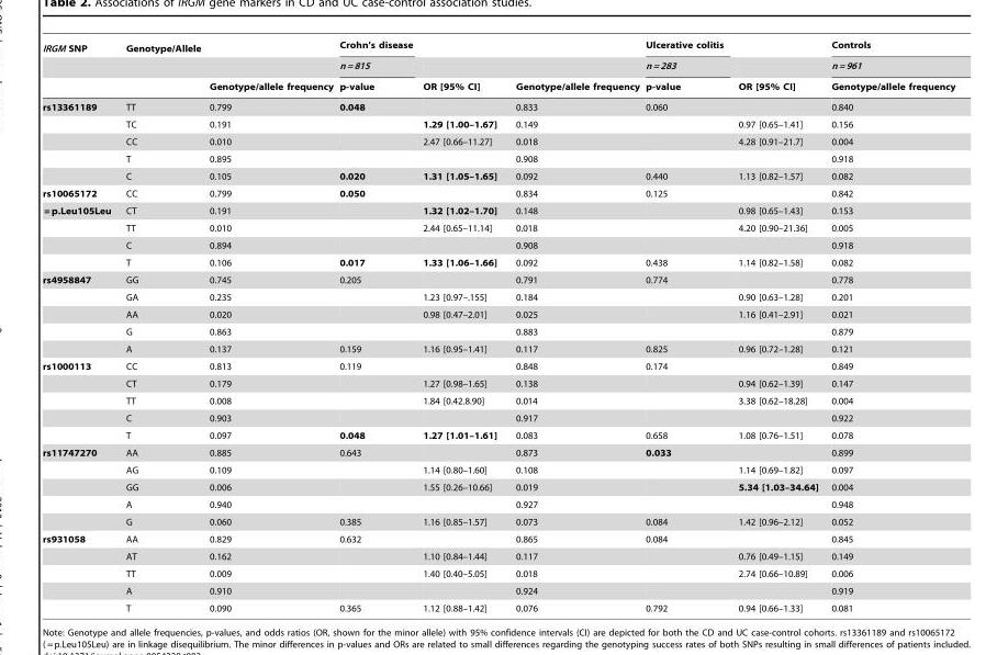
<table><thead><tr><td rowspan="3">IRGM SNP</td><td rowspan="3">Genotype/Allele</td><td rowspan="3">Genotype/allele frequency</td><td rowspan="3">Crohn’s disease n = 815 p-value</td><td rowspan="3">OR [95% CI]</td><td rowspan="3">Genotype/allele frequency</td><td rowspan="3">Ulcerative colitis n = 283 p-value</td><td rowspan="3">OR [95% CI]</td><td rowspan="3">Controls n = 961 Genotype/allele frequency</td></tr><tr></tr><tr></tr></thead><tbody><tr><td rowspan="5">rs13361189</td><td>TT</td><td>0.799</td><td>0.048</td><td></td><td>0.833</td><td>0.060</td><td></td><td>0.840</td></tr><tr><td>TC</td><td>0.191</td><td></td><td>1.29 [1.00–1.67]</td><td>0.149</td><td></td><td>0.97 [0.65–1.41]</td><td>0.156</td></tr><tr><td>CC</td><td>0.010</td><td></td><td>2.47 [0.66–11.27]</td><td>0.018</td><td></td><td>4.28 [0.91–21.7]</td><td>0.004</td></tr><tr><td>T</td><td>0.895</td><td></td><td></td><td>0.908</td><td></td><td></td><td>0.918</td></tr><tr><td>C</td><td>0.105</td><td>0.020</td><td>1.31 [1.05–1.65]</td><td>0.092</td><td>0.440</td><td>1.13 [0.82–1.57]</td><td>0.082</td></tr><tr><td>rs10065172</td><td>CC</td><td>0.799</td><td>0.050</td><td></td><td>0.834</td><td>0.125</td><td></td><td>0.842</td></tr><tr><td rowspan="4">= p.Leu105Leu</td><td>CT</td><td>0.191</td><td></td><td>1.32 [1.02–1.70]</td><td>0.148</td><td></td><td>0.98 [0.65–1.43]</td><td>0.153</td></tr><tr><td>TT</td><td>0.010</td><td></td><td>2.44 [0.65–11.14]</td><td>0.018</td><td></td><td>4.20 [0.90–21.36]</td><td>0.005</td></tr><tr><td>C</td><td>0.894</td><td></td><td></td><td>0.908</td><td></td><td></td><td>0.918</td></tr><tr><td>T</td><td>0.106</td><td>0.017</td><td>1.33 [1.06–1.66]</td><td>0.092</td><td>0.438</td><td>1.14 [0.82–1.58]</td><td>0.082</td></tr><tr><td rowspan="5">rs4958847</td><td>GG</td><td>0.745</td><td>0.205</td><td></td><td>0.791</td><td>0.774</td><td></td><td>0.778</td></tr><tr><td>GA</td><td>0.235</td><td></td><td>1.23 [0.97–.155]</td><td>0.184</td><td></td><td>0.90 [0.63–1.28]</td><td>0.201</td></tr><tr><td>AA</td><td>0.020</td><td></td><td>0.98 [0.47–2.01]</td><td>0.025</td><td></td><td>1.16 [0.41–2.91]</td><td>0.021</td></tr><tr><td>G</td><td>0.863</td><td></td><td></td><td>0.883</td><td></td><td></td><td>0.879</td></tr><tr><td>A</td><td>0.137</td><td>0.159</td><td>1.16 [0.95–1.41]</td><td>0.117</td><td>0.825</td><td>0.96 [0.72–1.28]</td><td>0.121</td></tr><tr><td rowspan="5">rs1000113</td><td>CC</td><td>0.813</td><td>0.119</td><td></td><td>0.848</td><td>0.174</td><td></td><td>0.849</td></tr><tr><td>CT</td><td>0.179</td><td></td><td>1.27 [0.98–1.65]</td><td>0.138</td><td></td><td>0.94 [0.62–1.39]</td><td>0.147</td></tr><tr><td>TT</td><td>0.008</td><td></td><td>1.84 [0.42.8.90]</td><td>0.014</td><td></td><td>3.38 [0.62–18.28]</td><td>0.004</td></tr><tr><td>C</td><td>0.903</td><td></td><td></td><td>0.917</td><td></td><td></td><td>0.922</td></tr><tr><td>T</td><td>0.097</td><td>0.048</td><td>1.27 [1.01–1.61]</td><td>0.083</td><td>0.658</td><td>1.08 [0.76–1.51]</td><td>0.078</td></tr><tr><td rowspan="5">rs11747270</td><td>AA</td><td>0.885</td><td>0.643</td><td></td><td>0.873</td><td>0.033</td><td></td><td>0.899</td></tr><tr><td>AG</td><td>0.109</td><td></td><td>1.14 [0.80–1.60]</td><td>0.108</td><td></td><td>1.14 [0.69–1.82]</td><td>0.097</td></tr><tr><td>GG</td><td>0.006</td><td></td><td>1.55 [0.26–10.66]</td><td>0.019</td><td></td><td>5.34 [1.03–34.64]</td><td>0.004</td></tr><tr><td>A</td><td>0.940</td><td></td><td></td><td>0.927</td><td></td><td></td><td>0.948</td></tr><tr><td>G</td><td>0.060</td><td>0.385</td><td>1.16 [0.85–1.57]</td><td>0.073</td><td>0.084</td><td>1.42 [0.96–2.12]</td><td>0.052</td></tr><tr><td rowspan="5">rs931058</td><td>AA</td><td>0.829</td><td>0.632</td><td></td><td>0.865</td><td>0.084</td><td></td><td>0.845</td></tr><tr><td>AT</td><td>0.162</td><td></td><td>1.10 [0.84–1.44]</td><td>0.117</td><td></td><td>0.76 [0.49–1.15]</td><td>0.149</td></tr><tr><td>TT</td><td>0.009</td><td></td><td>1.40 [0.40–5.05]</td><td>0.018</td><td></td><td>2.74 [0.66–10.89]</td><td>0.006</td></tr><tr><td>A</td><td>0.910</td><td></td><td></td><td>0.924</td><td></td><td></td><td>0.919</td></tr><tr><td>T</td><td>0.090</td><td>0.365</td><td>1.12 [0.88–1.42]</td><td>0.076</td><td>0.792</td><td>0.94 [0.66–1.33]</td><td>0.081</td></tr></tbody></table>